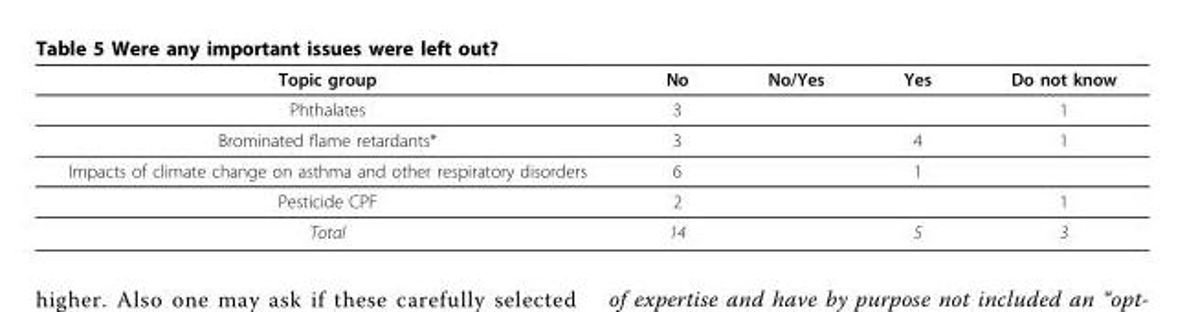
<table><thead><tr><td>Topic group</td><td>No</td><td>No/Yes</td><td>Yes</td><td>Do not know</td></tr></thead><tbody><tr><td>Phthalates</td><td>3</td><td></td><td></td><td>1</td></tr><tr><td>Brominated flame retardants*</td><td>3</td><td></td><td>4</td><td>1</td></tr><tr><td>Impacts of climate change on asthma and other respiratory disorders</td><td>6</td><td></td><td>1</td><td></td></tr><tr><td>Pesticide CPF</td><td>2</td><td></td><td></td><td>1</td></tr><tr><td>Total</td><td>14</td><td></td><td>5</td><td>3</td></tr></tbody></table>